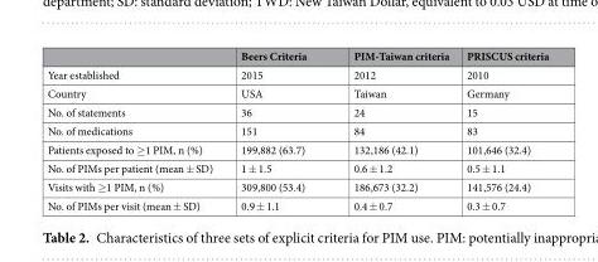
<table><thead><tr><td></td><td>Beers Criteria</td><td>PIM-Taiwan criteria</td><td>PRISCUS criteria</td></tr></thead><tbody><tr><td>Year established</td><td>2015</td><td>2012</td><td>2010</td></tr><tr><td>Country</td><td>USA</td><td>Taiwan</td><td>Germany</td></tr><tr><td>No. of statements</td><td>36</td><td>24</td><td>15</td></tr><tr><td>No. of medications</td><td>151</td><td>84</td><td>83</td></tr><tr><td>Patients exposed to ≥1 PIM, n (%)</td><td>199,882 (63.7)</td><td>132,186 (42.1)</td><td>101,646 (32.4)</td></tr><tr><td>No. of PIMs per patient (mean ± SD)</td><td>1 ± 1.5</td><td>0.6 ± 1.2</td><td>0.5 ± 1.1</td></tr><tr><td>Visits with ≥1 PIM, n (%)</td><td>309,800 (53.4)</td><td>186,673 (32.2)</td><td>141,576 (24.4)</td></tr><tr><td>No. of PIMs per visit (mean ± SD)</td><td>0.9 ± 1.1</td><td>0.4 ± 0.7</td><td>0.3 ± 0.7</td></tr></tbody></table>